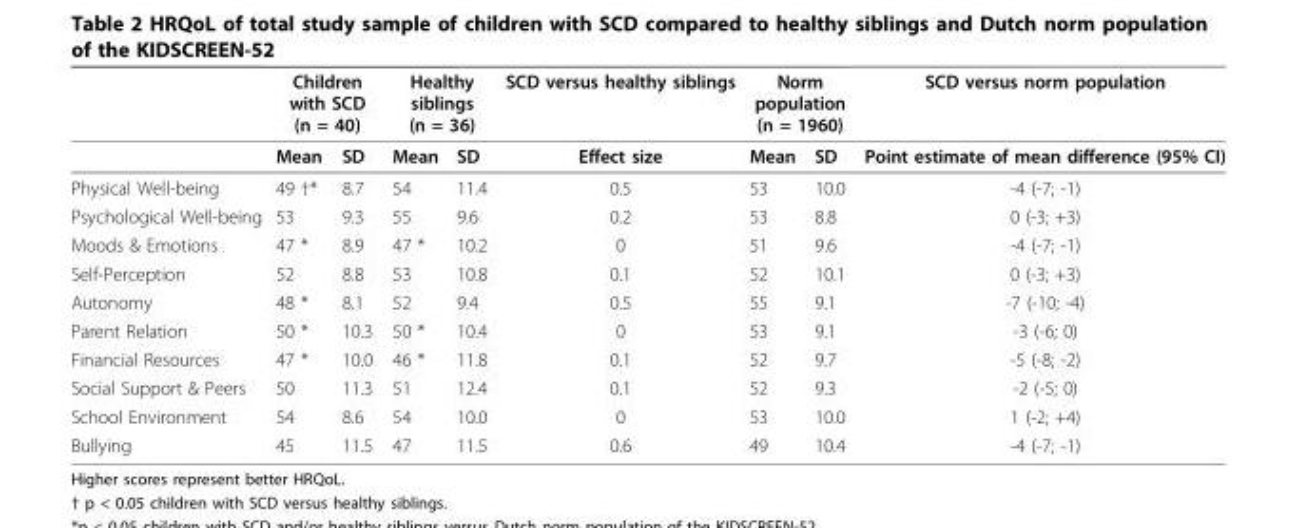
<table><thead><tr><td rowspan="2"></td><td colspan="2">Children with SCD (n = 40)</td><td colspan="2">Healthy siblings (n = 36)</td><td rowspan="2">SCD versus healthy siblings Effect size</td><td colspan="2">Norm population (n = 1960)</td><td rowspan="2">SCD versus norm population Point estimate of mean difference (95% CI)</td></tr><tr><td>Mean</td><td>SD</td><td>Mean</td><td>SD</td><td>Mean</td><td>SD</td></tr></thead><tbody><tr><td>Physical Well-being</td><td>49 †*</td><td>8.7</td><td>54</td><td>11.4</td><td>0.5</td><td>53</td><td>10.0</td><td>-4 (-7; -1)</td></tr><tr><td>Psychological Well-being</td><td>53</td><td>9.3</td><td>55</td><td>9.6</td><td>0.2</td><td>53</td><td>8.8</td><td>0 (-3; +3)</td></tr><tr><td>Moods &amp; Emotions</td><td>47 *</td><td>8.9</td><td>47 *</td><td>10.2</td><td>0</td><td>51</td><td>9.6</td><td>-4 (-7; -1)</td></tr><tr><td>Self-Perception</td><td>52</td><td>8.8</td><td>53</td><td>10.8</td><td>0.1</td><td>52</td><td>10.1</td><td>0 (-3; +3)</td></tr><tr><td>Autonomy</td><td>48 *</td><td>8.1</td><td>52</td><td>9.4</td><td>0.5</td><td>55</td><td>9.1</td><td>-7 (-10; -4)</td></tr><tr><td>Parent Relation</td><td>50 *</td><td>10.3</td><td>50 *</td><td>10.4</td><td>0</td><td>53</td><td>9.1</td><td>-3 (-6; 0)</td></tr><tr><td>Financial Resources</td><td>47 *</td><td>10.0</td><td>46 *</td><td>11.8</td><td>0.1</td><td>52</td><td>9.7</td><td>-5 (-8; -2)</td></tr><tr><td>Social Support &amp; Peers</td><td>50</td><td>11.3</td><td>51</td><td>12.4</td><td>0.1</td><td>52</td><td>9.3</td><td>-2 (-5; 0)</td></tr><tr><td>School Environment</td><td>54</td><td>8.6</td><td>54</td><td>10.0</td><td>0</td><td>53</td><td>10.0</td><td>1 (-2; +4)</td></tr><tr><td>Bullying</td><td>45</td><td>11.5</td><td>47</td><td>11.5</td><td>0.6</td><td>49</td><td>10.4</td><td>-4 (-7; -1)</td></tr></tbody></table>